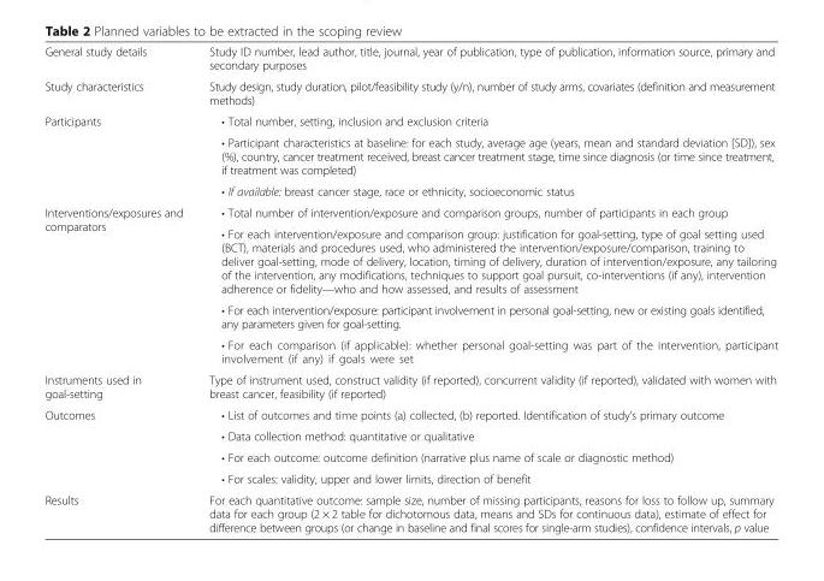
<table><tbody><tr><td>General study details</td><td>Study ID number, lead author, title, journal, year of publication, type of publication, information source, primary and secondary purposes</td></tr><tr><td>Study characteristics</td><td>Study design, study duration, pilot/feasibility study (y/n), number of study arms, covariates (definition and measurement methods)</td></tr><tr><td rowspan="3">Participants</td><td>• Total number, setting, inclusion and exclusion criteria</td></tr><tr><td>• Participant characteristics at baseline: for each study, average age (years, mean and standard deviation [SD]), sex (%), country, cancer treatment received, breast cancer treatment stage, time since diagnosis (or time since treatment, if treatment was completed)</td></tr><tr><td>• If available: breast cancer stage, race or ethnicity, socioeconomic status</td></tr><tr><td rowspan="4">Interventions/exposures and comparators</td><td>• Total number of intervention/exposure and comparison groups, number of participants in each group</td></tr><tr><td>• For each intervention/exposure and comparison group: justification for goal-setting, type of goal setting used (BCT), materials and procedures used, who administered the intervention/exposure/comparison, training to deliver goal-setting, mode of delivery, location, timing of delivery, duration of intervention/exposure, any tailoring of the intervention, any modifications, techniques to support goal pursuit, co-interventions (if any), intervention adherence or fidelity—who and how assessed, and results of assessment</td></tr><tr><td>• For each intervention/exposure: participant involvement in personal goal-setting, new or existing goals identified, any parameters given for goal-setting.</td></tr><tr><td>• For each comparison (if applicable): whether personal goal-setting was part of the intervention, participant involvement (if any) if goals were set</td></tr><tr><td>Instruments used in goal-setting</td><td>Type of instrument used, construct validity (if reported), concurrent validity (if reported), validated with women with breast cancer, feasibility (if reported)</td></tr><tr><td rowspan="4">Outcomes</td><td>• List of outcomes and time points (a) collected, (b) reported. Identification of study’s primary outcome</td></tr><tr><td>• Data collection method: quantitative or qualitative</td></tr><tr><td>• For each outcome: outcome definition (narrative plus name of scale or diagnostic method)</td></tr><tr><td>• For scales: validity, upper and lower limits, direction of benefit</td></tr><tr><td>Results</td><td>For each quantitative outcome: sample size, number of missing participants, reasons for loss to follow up, summary data for each group (2 × 2 table for dichotomous data, means and SDs for continuous data), estimate of effect for difference between groups (or change in baseline and final scores for single-arm studies), confidence intervals, p value</td></tr></tbody></table>